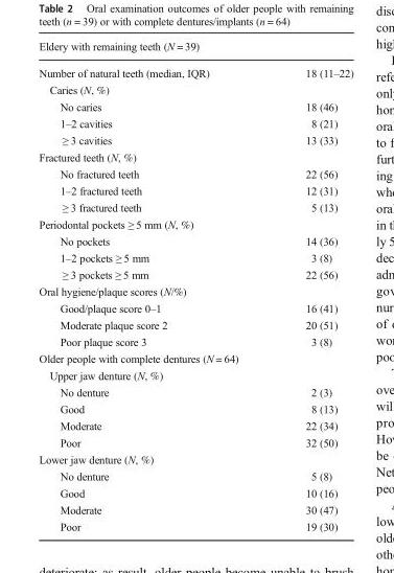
<table><thead><tr><td colspan="2">Eldery with remaining teeth (N = 39)</td></tr><tr><td>Number of natural teeth (median, IQR)</td><td>18 (11–22)</td></tr></thead><tbody><tr><td colspan="2">Caries (N, %)</td></tr><tr><td>No caries</td><td>18 (46)</td></tr><tr><td>1–2 cavities</td><td>8 (21)</td></tr><tr><td>≥ 3 cavities</td><td>13 (33)</td></tr><tr><td colspan="2">Fractured teeth (N, %)</td></tr><tr><td>No fractured teeth</td><td>22 (56)</td></tr><tr><td>1–2 fractured teeth</td><td>12 (31)</td></tr><tr><td>≥ 3 fractured teeth</td><td>5 (13)</td></tr><tr><td colspan="2">Periodontal pockets ≥ 5 mm (N, %)</td></tr><tr><td>No pockets</td><td>14 (36)</td></tr><tr><td>1–2 pockets ≥ 5 mm</td><td>3 (8)</td></tr><tr><td>≥ 3 pockets ≥ 5 mm</td><td>22 (56)</td></tr><tr><td colspan="2">Oral hygiene/plaque scores (N/%)</td></tr><tr><td>Good/plaque score 0–1</td><td>16 (41)</td></tr><tr><td>Moderate plaque score 2</td><td>20 (51)</td></tr><tr><td>Poor plaque score 3</td><td>3 (8)</td></tr><tr><td colspan="2">Older people with complete dentures (N = 64)</td></tr><tr><td colspan="2">Upper jaw denture (N, %)</td></tr><tr><td>No denture</td><td>2 (3)</td></tr><tr><td>Good</td><td>8 (13)</td></tr><tr><td>Moderate</td><td>22 (34)</td></tr><tr><td>Poor</td><td>32 (50)</td></tr><tr><td colspan="2">Lower jaw denture (N, %)</td></tr><tr><td>No denture</td><td>5 (8)</td></tr><tr><td>Good</td><td>10 (16)</td></tr><tr><td>Moderate</td><td>30 (47)</td></tr><tr><td>Poor</td><td>19 (30)</td></tr></tbody></table>